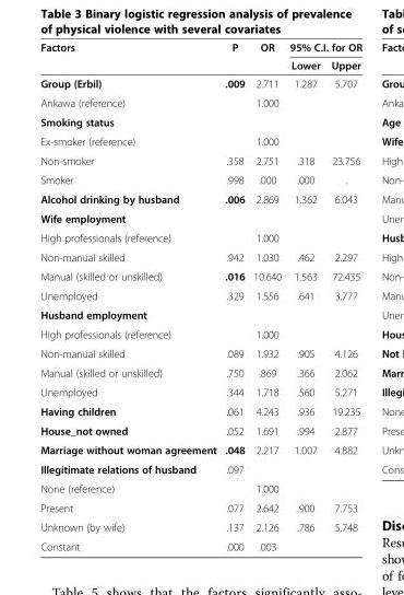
<table><thead><tr><td rowspan="2">Factors</td><td rowspan="2">P</td><td rowspan="2">OR</td><td colspan="2">95% C.I. for OR</td></tr><tr><td>Lower</td><td>Upper</td></tr></thead><tbody><tr><td>Group (Erbil)</td><td>.009</td><td>2.711</td><td>1.287</td><td>5.707</td></tr><tr><td>Ankawa (reference)</td><td></td><td>1.000</td><td></td><td></td></tr><tr><td colspan="5">Smoking status</td></tr><tr><td>Ex-smoker (reference)</td><td></td><td>1.000</td><td></td><td></td></tr><tr><td>Non-smoker</td><td>.358</td><td>2.751</td><td>.318</td><td>23.756</td></tr><tr><td>Smoker</td><td>.998</td><td>.000</td><td>.000</td><td>.</td></tr><tr><td>Alcohol drinking by husband</td><td>.006</td><td>2.869</td><td>1.362</td><td>6.043</td></tr><tr><td colspan="5">Wife employment</td></tr><tr><td>High professionals (reference)</td><td></td><td>1.000</td><td></td><td></td></tr><tr><td>Non-manual skilled</td><td>.942</td><td>1.030</td><td>.462</td><td>2.297</td></tr><tr><td>Manual (skilled or unskilled)</td><td>.016</td><td>10.640</td><td>1.563</td><td>72.435</td></tr><tr><td>Unemployed</td><td>.329</td><td>1.556</td><td>.641</td><td>3.777</td></tr><tr><td colspan="5">Husband employment</td></tr><tr><td>High professionals (reference)</td><td></td><td>1.000</td><td></td><td></td></tr><tr><td>Non-manual skilled</td><td>.089</td><td>1.932</td><td>.905</td><td>4.126</td></tr><tr><td>Manual (skilled or unskilled)</td><td>.750</td><td>.869</td><td>.366</td><td>2.062</td></tr><tr><td>Unemployed</td><td>.344</td><td>1.718</td><td>.560</td><td>5.271</td></tr><tr><td>Having children</td><td>.061</td><td>4.243</td><td>.936</td><td>19.235</td></tr><tr><td>House_not owned</td><td>.052</td><td>1.691</td><td>.994</td><td>2.877</td></tr><tr><td>Marriage without woman agreement</td><td>.048</td><td>2.217</td><td>1.007</td><td>4.882</td></tr><tr><td>Illegitimate relations of husband</td><td>.097</td><td></td><td></td><td></td></tr><tr><td>None (reference)</td><td></td><td>1.000</td><td></td><td></td></tr><tr><td>Present</td><td>.077</td><td>2.642</td><td>.900</td><td>7.753</td></tr><tr><td>Unknown (by wife)</td><td>.137</td><td>2.126</td><td>.786</td><td>5.748</td></tr><tr><td>Constant</td><td>.000</td><td>.003</td><td></td><td></td></tr></tbody></table>